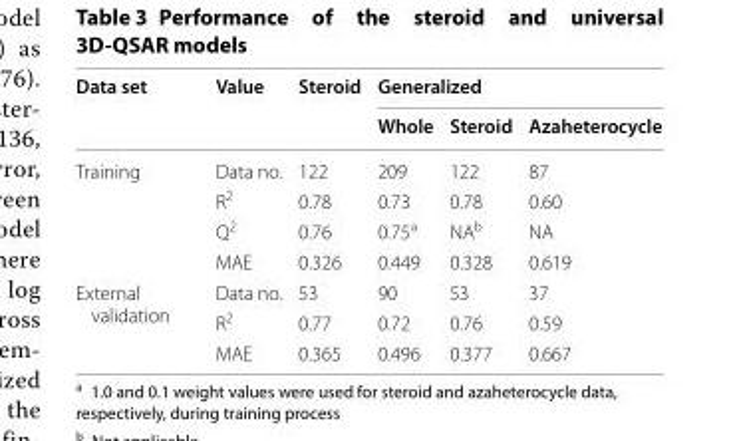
<table><thead><tr><td rowspan="2">Data set</td><td rowspan="2">Value</td><td rowspan="2">Steroid</td><td colspan="3">Generalized</td></tr><tr><td>Whole</td><td>Steroid</td><td>Azaheterocycle</td></tr></thead><tbody><tr><td rowspan="4">Training</td><td>Data no.</td><td>122</td><td>209</td><td>122</td><td>87</td></tr><tr><td>R<sup>2</sup></td><td>0.78</td><td>0.73</td><td>0.78</td><td>0.60</td></tr><tr><td>Q<sup>2</sup></td><td>0.76</td><td>0.75<sup>a</sup></td><td>NA<sup>b</sup></td><td>NA</td></tr><tr><td>MAE</td><td>0.326</td><td>0.449</td><td>0.328</td><td>0.619</td></tr><tr><td rowspan="3">External validation</td><td>Data no.</td><td>53</td><td>90</td><td>53</td><td>37</td></tr><tr><td>R<sup>2</sup></td><td>0.77</td><td>0.72</td><td>0.76</td><td>0.59</td></tr><tr><td>MAE</td><td>0.365</td><td>0.496</td><td>0.377</td><td>0.667</td></tr></tbody></table>